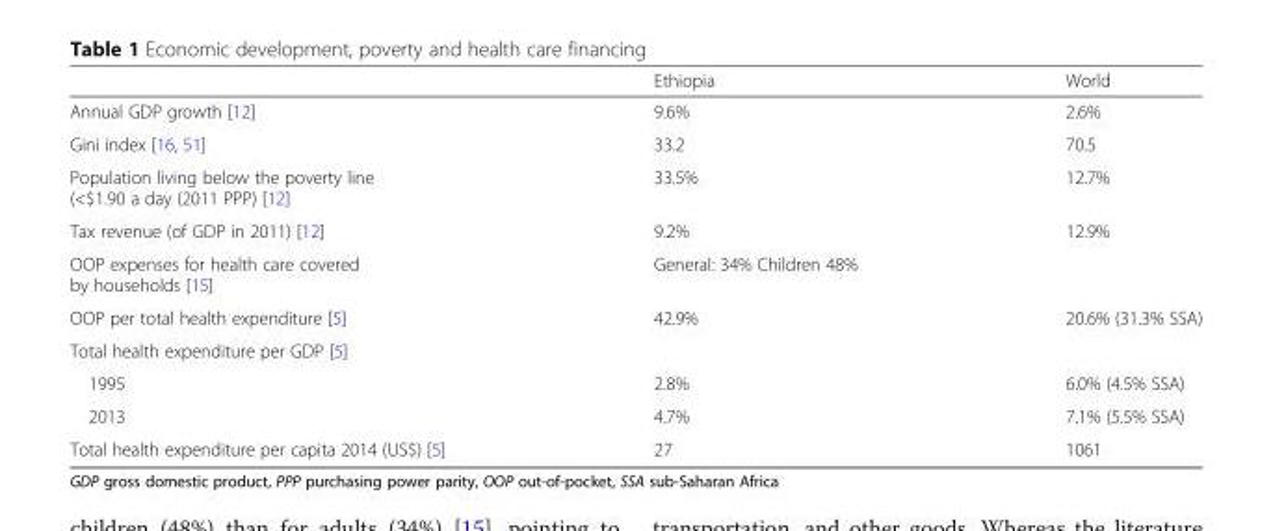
<table><thead><tr><td></td><td>Ethiopia</td><td>World</td></tr></thead><tbody><tr><td>Annual GDP growth [12]</td><td>9.6%</td><td>2.6%</td></tr><tr><td>Gini index [16, 51]</td><td>33.2</td><td>70.5</td></tr><tr><td>Population living below the poverty line (&lt;$1.90 a day (2011 PPP) [12]</td><td>33.5%</td><td>12.7%</td></tr><tr><td>Tax revenue (of GDP in 2011) [12]</td><td>9.2%</td><td>12.9%</td></tr><tr><td>OOP expenses for health care covered by households [15]</td><td>General: 34% Children 48%</td><td></td></tr><tr><td>OOP per total health expenditure [5]</td><td>42.9%</td><td>20.6% (31.3% SSA)</td></tr><tr><td colspan="3">Total health expenditure per GDP [5]</td></tr><tr><td>1995</td><td>2.8%</td><td>6.0% (4.5% SSA)</td></tr><tr><td>2013</td><td>4.7%</td><td>7.1% (5.5% SSA)</td></tr><tr><td>Total health expenditure per capita 2014 (US$) [5]</td><td>27</td><td>1061</td></tr></tbody></table>